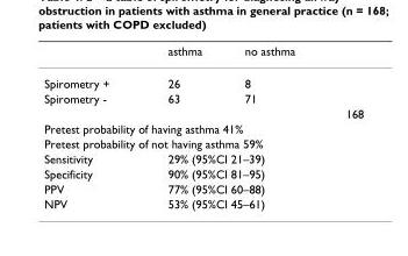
<table><thead><tr><td></td><td>asthma</td><td>no asthma</td><td></td></tr></thead><tbody><tr><td>Spirometry +</td><td>26</td><td>8</td><td></td></tr><tr><td rowspan="2">Spirometry -</td><td>63</td><td>71</td><td></td></tr><tr><td></td><td></td><td>168</td></tr><tr><td colspan="4">Pretest probability of having asthma 41%</td></tr><tr><td colspan="4">Pretest probability of not having asthma 59%</td></tr><tr><td>Sensitivity</td><td colspan="3">29% (95%CI 21–39)</td></tr><tr><td>Specificity</td><td colspan="3">90% (95%CI 81–95)</td></tr><tr><td>PPV</td><td colspan="3">77% (95%CI 60–88)</td></tr><tr><td>NPV</td><td colspan="3">53% (95%CI 45–61)</td></tr></tbody></table>